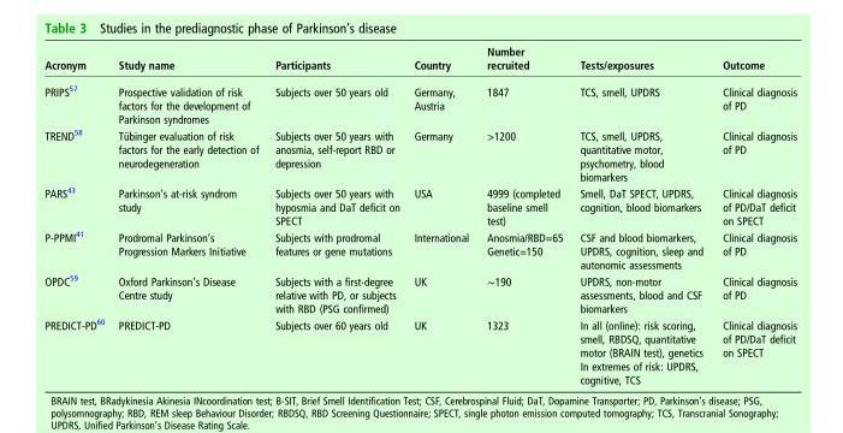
<table><thead><tr><td>Acronym</td><td>Study name</td><td>Participants</td><td>Country</td><td>Number recruited</td><td>Tests/exposures</td><td>Outcome</td></tr></thead><tbody><tr><td>PRIPS<sup>57</sup></td><td>Prospective validation of risk factors for the development of Parkinson syndromes</td><td>Subjects over 50 years old</td><td>Germany, Austria</td><td>1847</td><td>TCS, smell, UPDRS</td><td>Clinical diagnosis of PD</td></tr><tr><td>TREND<sup>58</sup></td><td>Tübinger evaluation of risk factors for the early detection of neurodegeneration</td><td>Subjects over 50 years with anosmia, self-report RBD or depression</td><td>Germany</td><td>&gt;1200</td><td>TCS, smell, UPDRS, quantitative motor, psychometry, blood biomarkers</td><td>Clinical diagnosis of PD</td></tr><tr><td>PARS<sup>43</sup></td><td>Parkinson’s at-risk syndrom study</td><td>Subjects over 50 years with hyposmia and DaT deficit on SPECT</td><td>USA</td><td>4999 (completed baseline smell test)</td><td>Smell, DaT SPECT, UPDRS, cognition, blood biomarkers</td><td>Clinical diagnosis of PD/DaT deficit on SPECT</td></tr><tr><td>P-PPMI<sup>41</sup></td><td>Prodromal Parkinson’s Progression Markers Initiative</td><td>Subjects with prodromal features or gene mutations</td><td>International</td><td>Anosmia/RBD=65 Genetic=150</td><td>CSF and blood biomarkers, UPDRS, cognition, sleep and autonomic assessments</td><td>Clinical diagnosis of PD</td></tr><tr><td>OPDC<sup>59</sup></td><td>Oxford Parkinson’s Disease Centre study</td><td>Subjects with a first-degree relative with PD, or subjects with RBD (PSG confirmed)</td><td>UK</td><td>∼190</td><td>UPDRS, non-motor assessments, blood and CSF biomarkers</td><td>Clinical diagnosis of PD</td></tr><tr><td>PREDICT-PD<sup>60</sup></td><td>PREDICT-PD</td><td>Subjects over 60 years old</td><td>UK</td><td>1323</td><td>In all (online): risk scoring, smell, RBDSQ, quantitative motor (BRAIN test), genetics In extremes of risk: UPDRS, cognitive, TCS</td><td>Clinical diagnosis of PD/DaT deficit on SPECT</td></tr></tbody></table>